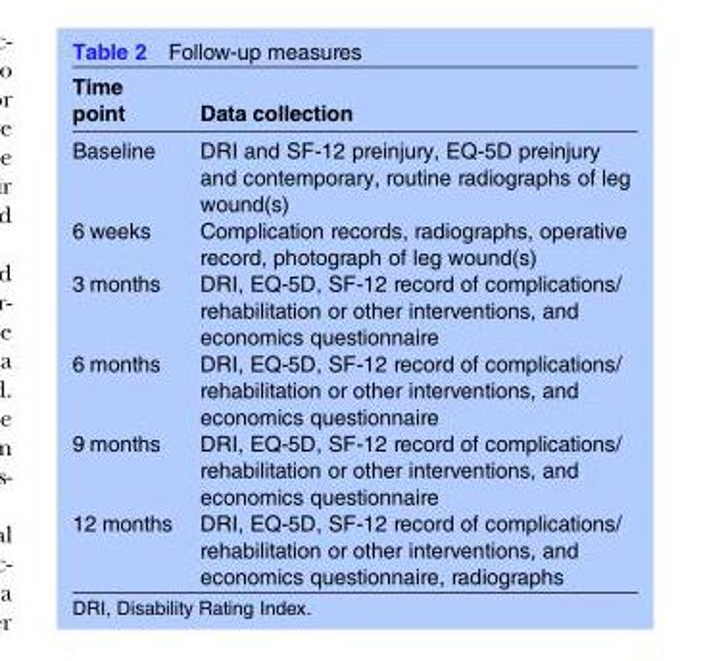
<table><thead><tr><td>Time point</td><td>Data collection</td></tr></thead><tbody><tr><td>Baseline</td><td>DRI and SF-12 preinjury, EQ-5D preinjury and contemporary, routine radiographs of leg wound(s)</td></tr><tr><td>6 weeks</td><td>Complication records, radiographs, operative record, photograph of leg wound(s)</td></tr><tr><td>3 months</td><td>DRI, EQ-5D, SF-12 record of complications/ rehabilitation or other interventions, and economics questionnaire</td></tr><tr><td>6 months</td><td>DRI, EQ-5D, SF-12 record of complications/ rehabilitation or other interventions, and economics questionnaire</td></tr><tr><td>9 months</td><td>DRI, EQ-5D, SF-12 record of complications/ rehabilitation or other interventions, and economics questionnaire</td></tr><tr><td>12 months</td><td>DRI, EQ-5D, SF-12 record of complications/ rehabilitation or other interventions, and economics questionnaire, radiographs</td></tr></tbody></table>